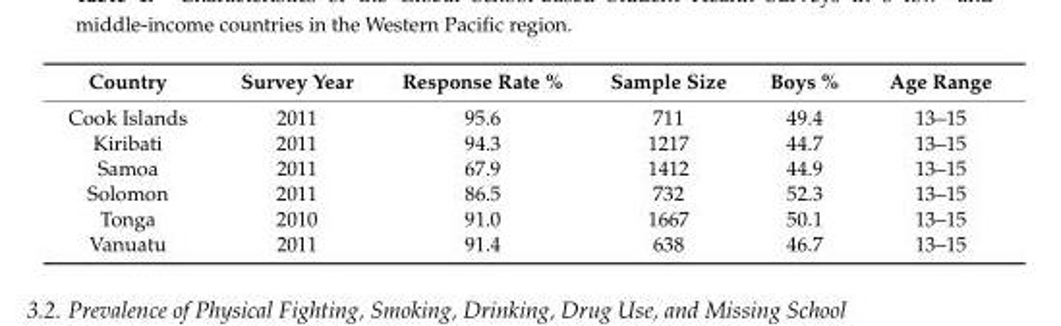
<table><thead><tr><td>Country</td><td>Survey Year</td><td>Response Rate %</td><td>Sample Size</td><td>Boys %</td><td>Age Range</td></tr></thead><tbody><tr><td>Cook Islands</td><td>2011</td><td>95.6</td><td>711</td><td>49.4</td><td>13–15</td></tr><tr><td>Kiribati</td><td>2011</td><td>94.3</td><td>1217</td><td>44.7</td><td>13–15</td></tr><tr><td>Samoa</td><td>2011</td><td>67.9</td><td>1412</td><td>44.9</td><td>13–15</td></tr><tr><td>Solomon</td><td>2011</td><td>86.5</td><td>732</td><td>52.3</td><td>13–15</td></tr><tr><td>Tonga</td><td>2010</td><td>91.0</td><td>1667</td><td>50.1</td><td>13–15</td></tr><tr><td>Vanuatu</td><td>2011</td><td>91.4</td><td>638</td><td>46.7</td><td>13–15</td></tr></tbody></table>